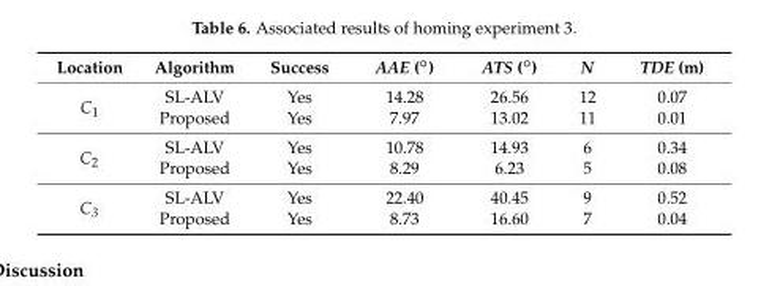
<table><thead><tr><td>Location</td><td>Algorithm</td><td>Success</td><td>AAE (◦)</td><td>ATS (◦)</td><td>N</td><td>TDE (m)</td></tr></thead><tbody><tr><td rowspan="2">C<sub>1</sub></td><td>SL-ALV</td><td>Yes</td><td>14.28</td><td>26.56</td><td>12</td><td>0.07</td></tr><tr><td>Proposed</td><td>Yes</td><td>7.97</td><td>13.02</td><td>11</td><td>0.01</td></tr><tr><td rowspan="2">C<sub>2</sub></td><td>SL-ALV</td><td>Yes</td><td>10.78</td><td>14.93</td><td>6</td><td>0.34</td></tr><tr><td>Proposed</td><td>Yes</td><td>8.29</td><td>6.23</td><td>5</td><td>0.08</td></tr><tr><td rowspan="2">C<sub>3</sub></td><td>SL-ALV</td><td>Yes</td><td>22.40</td><td>40.45</td><td>9</td><td>0.52</td></tr><tr><td>Proposed</td><td>Yes</td><td>8.73</td><td>16.60</td><td>7</td><td>0.04</td></tr></tbody></table>